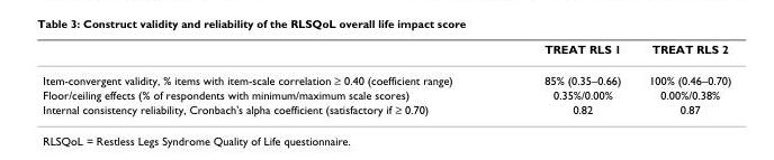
<table><thead><tr><td></td><td>TREAT RLS 1</td><td>TREAT RLS 2</td></tr></thead><tbody><tr><td>Item-convergent validity, % items with item-scale correlation ≥ 0.40 (coefficient range)</td><td>85% (0.35–0.66)</td><td>100% (0.46–0.70)</td></tr><tr><td>Floor/ceiling effects (% of respondents with minimum/maximum scale scores)</td><td>0.35%/0.00%</td><td>0.00%/0.38%</td></tr><tr><td>Internal consistency reliability, Cronbach&#x27;s alpha coefficient (satisfactory if ≥ 0.70)</td><td>0.82</td><td>0.87</td></tr></tbody></table>